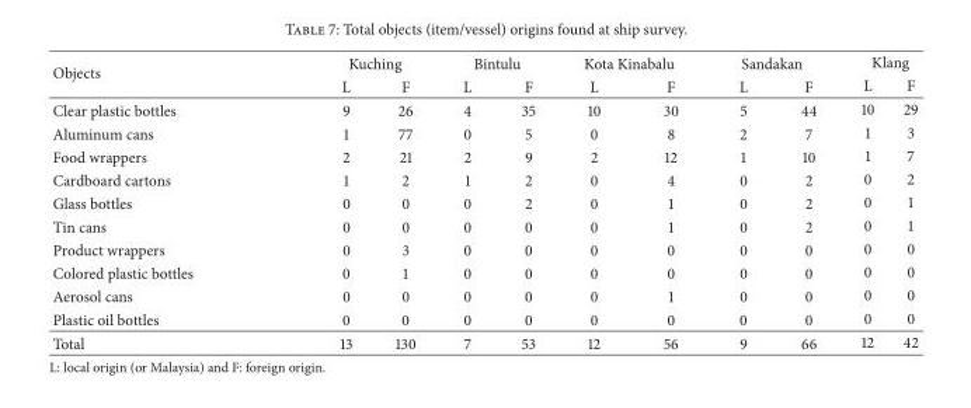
<table><thead><tr><td rowspan="2">Objects</td><td colspan="2">Kuching</td><td colspan="2">Bintulu</td><td colspan="2">Kota Kinabalu</td><td colspan="2">Sandakan</td><td colspan="2">Klang</td></tr><tr><td>L</td><td>F</td><td>L</td><td>F</td><td>L</td><td>F</td><td>L</td><td>F</td><td>L</td><td>F</td></tr></thead><tbody><tr><td>Clear plastic bottles</td><td>9</td><td>26</td><td>4</td><td>35</td><td>10</td><td>30</td><td>5</td><td>44</td><td>10</td><td>29</td></tr><tr><td>Aluminum cans</td><td>1</td><td>77</td><td>0</td><td>5</td><td>0</td><td>8</td><td>2</td><td>7</td><td>1</td><td>3</td></tr><tr><td>Food wrappers</td><td>2</td><td>21</td><td>2</td><td>9</td><td>2</td><td>12</td><td>1</td><td>10</td><td>1</td><td>7</td></tr><tr><td>Cardboard cartons</td><td>1</td><td>2</td><td>1</td><td>2</td><td>0</td><td>4</td><td>0</td><td>2</td><td>0</td><td>2</td></tr><tr><td>Glass bottles</td><td>0</td><td>0</td><td>0</td><td>2</td><td>0</td><td>1</td><td>0</td><td>2</td><td>0</td><td>1</td></tr><tr><td>Tin cans</td><td>0</td><td>0</td><td>0</td><td>0</td><td>0</td><td>1</td><td>0</td><td>2</td><td>0</td><td>1</td></tr><tr><td>Product wrappers</td><td>0</td><td>3</td><td>0</td><td>0</td><td>0</td><td>0</td><td>0</td><td>0</td><td>0</td><td>0</td></tr><tr><td>Colored plastic bottles</td><td>0</td><td>1</td><td>0</td><td>0</td><td>0</td><td>0</td><td>0</td><td>0</td><td>0</td><td>0</td></tr><tr><td>Aerosol cans</td><td>0</td><td>0</td><td>0</td><td>0</td><td>0</td><td>1</td><td>0</td><td>0</td><td>0</td><td>0</td></tr><tr><td>Plastic oil bottles</td><td>0</td><td>0</td><td>0</td><td>0</td><td>0</td><td>0</td><td>0</td><td>0</td><td>0</td><td>0</td></tr><tr><td>Total</td><td>13</td><td>130</td><td>7</td><td>53</td><td>12</td><td>56</td><td>9</td><td>66</td><td>12</td><td>42</td></tr></tbody></table>